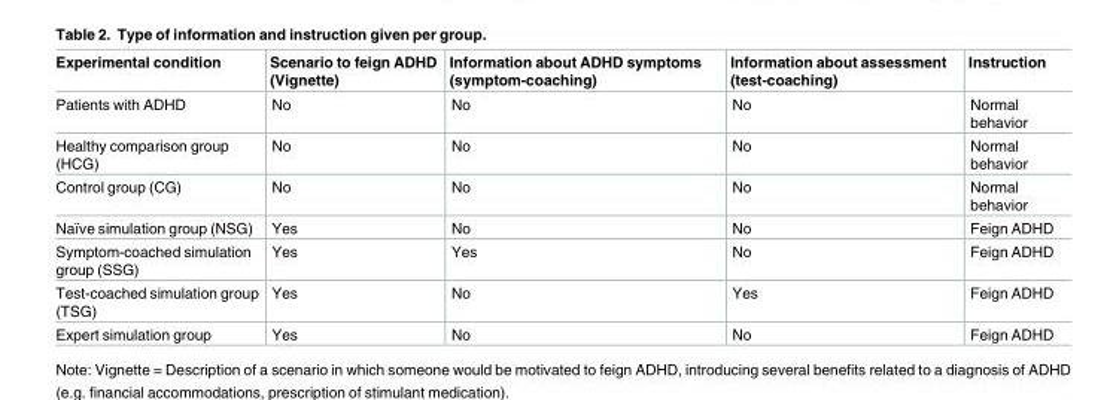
<table><thead><tr><td>Experimental condition</td><td>Scenario to feign ADHD (Vignette)</td><td>Information about ADHD symptoms (symptom-coaching)</td><td>Information about assessment (test-coaching)</td><td>Instruction</td></tr></thead><tbody><tr><td>Patients with ADHD</td><td>No</td><td>No</td><td>No</td><td>Normal behavior</td></tr><tr><td>Healthy comparison group (HCG)</td><td>No</td><td>No</td><td>No</td><td>Normal behavior</td></tr><tr><td>Control group (CG)</td><td>No</td><td>No</td><td>No</td><td>Normal behavior</td></tr><tr><td>Naïve simulation group (NSG)</td><td>Yes</td><td>No</td><td>No</td><td>Feign ADHD</td></tr><tr><td>Symptom-coached simulation group (SSG)</td><td>Yes</td><td>Yes</td><td>No</td><td>Feign ADHD</td></tr><tr><td>Test-coached simulation group (TSG)</td><td>Yes</td><td>No</td><td>Yes</td><td>Feign ADHD</td></tr><tr><td>Expert simulation group</td><td>Yes</td><td>No</td><td>No</td><td>Feign ADHD</td></tr></tbody></table>